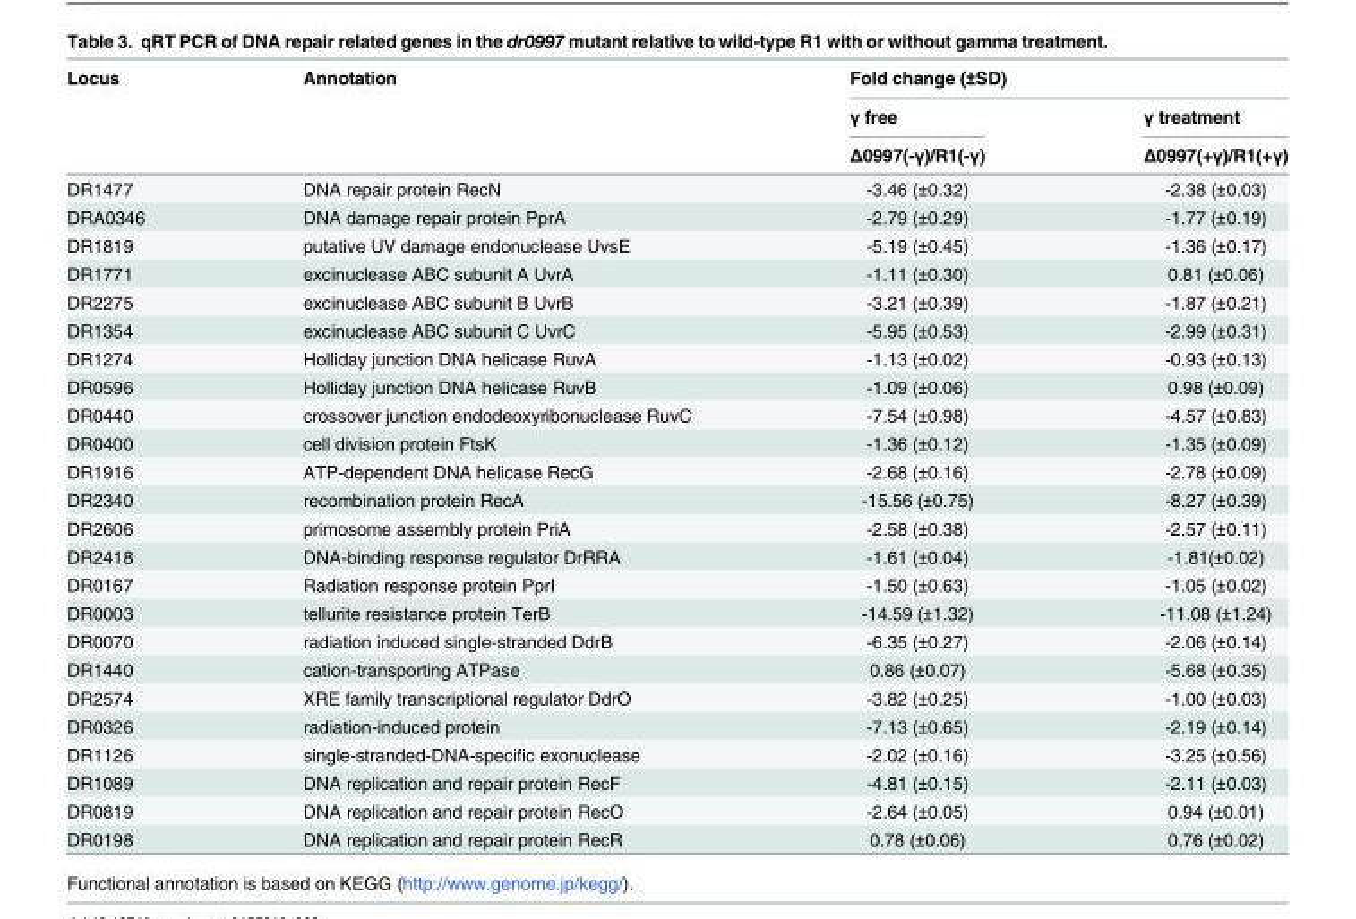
<table><thead><tr><td rowspan="3">Locus</td><td rowspan="3">Annotation</td><td colspan="2">Fold change (±SD)</td></tr><tr><td rowspan="2">γ free Δ0997(-γ)/R1(-γ)</td><td rowspan="2">γ treatment Δ0997(+γ)/R1(+γ)</td></tr><tr></tr></thead><tbody><tr><td>DR1477</td><td>DNA repair protein RecN</td><td>-3.46 (±0.32)</td><td>-2.38 (±0.03)</td></tr><tr><td>DRA0346</td><td>DNA damage repair protein PprA</td><td>-2.79 (±0.29)</td><td>-1.77 (±0.19)</td></tr><tr><td>DR1819</td><td>putative UV damage endonuclease UvsE</td><td>-5.19 (±0.45)</td><td>-1.36 (±0.17)</td></tr><tr><td>DR1771</td><td>excinuclease ABC subunit A UvrA</td><td>-1.11 (±0.30)</td><td>0.81 (±0.06)</td></tr><tr><td>DR2275</td><td>excinuclease ABC subunit B UvrB</td><td>-3.21 (±0.39)</td><td>-1.87 (±0.21)</td></tr><tr><td>DR1354</td><td>excinuclease ABC subunit C UvrC</td><td>-5.95 (±0.53)</td><td>-2.99 (±0.31)</td></tr><tr><td>DR1274</td><td>Holliday junction DNA helicase RuvA</td><td>-1.13 (±0.02)</td><td>-0.93 (±0.13)</td></tr><tr><td>DR0596</td><td>Holliday junction DNA helicase RuvB</td><td>-1.09 (±0.06)</td><td>0.98 (±0.09)</td></tr><tr><td>DR0440</td><td>crossover junction endodeoxyribonuclease RuvC</td><td>-7.54 (±0.98)</td><td>-4.57 (±0.83)</td></tr><tr><td>DR0400</td><td>cell division protein FtsK</td><td>-1.36 (±0.12)</td><td>-1.35 (±0.09)</td></tr><tr><td>DR1916</td><td>ATP-dependent DNA helicase RecG</td><td>-2.68 (±0.16)</td><td>-2.78 (±0.09)</td></tr><tr><td>DR2340</td><td>recombination protein RecA</td><td>-15.56 (±0.75)</td><td>-8.27 (±0.39)</td></tr><tr><td>DR2606</td><td>primosome assembly protein PriA</td><td>-2.58 (±0.38)</td><td>-2.57 (±0.11)</td></tr><tr><td>DR2418</td><td>DNA-binding response regulator DrRRA</td><td>-1.61 (±0.04)</td><td>-1.81(±0.02)</td></tr><tr><td>DR0167</td><td>Radiation response protein PprI</td><td>-1.50 (±0.63)</td><td>-1.05 (±0.02)</td></tr><tr><td>DR0003</td><td>tellurite resistance protein TerB</td><td>-14.59 (±1.32)</td><td>-11.08 (±1.24)</td></tr><tr><td>DR0070</td><td>radiation induced single-stranded DdrB</td><td>-6.35 (±0.27)</td><td>-2.06 (±0.14)</td></tr><tr><td>DR1440</td><td>cation-transporting ATPase</td><td>0.86 (±0.07)</td><td>-5.68 (±0.35)</td></tr><tr><td>DR2574</td><td>XRE family transcriptional regulator DdrO</td><td>-3.82 (±0.25)</td><td>-1.00 (±0.03)</td></tr><tr><td>DR0326</td><td>radiation-induced protein</td><td>-7.13 (±0.65)</td><td>-2.19 (±0.14)</td></tr><tr><td>DR1126</td><td>single-stranded-DNA-specific exonuclease</td><td>-2.02 (±0.16)</td><td>-3.25 (±0.56)</td></tr><tr><td>DR1089</td><td>DNA replication and repair protein RecF</td><td>-4.81 (±0.15)</td><td>-2.11 (±0.03)</td></tr><tr><td>DR0819</td><td>DNA replication and repair protein RecO</td><td>-2.64 (±0.05)</td><td>0.94 (±0.01)</td></tr><tr><td>DR0198</td><td>DNA replication and repair protein RecR</td><td>0.78 (±0.06)</td><td>0.76 (±0.02)</td></tr></tbody></table>